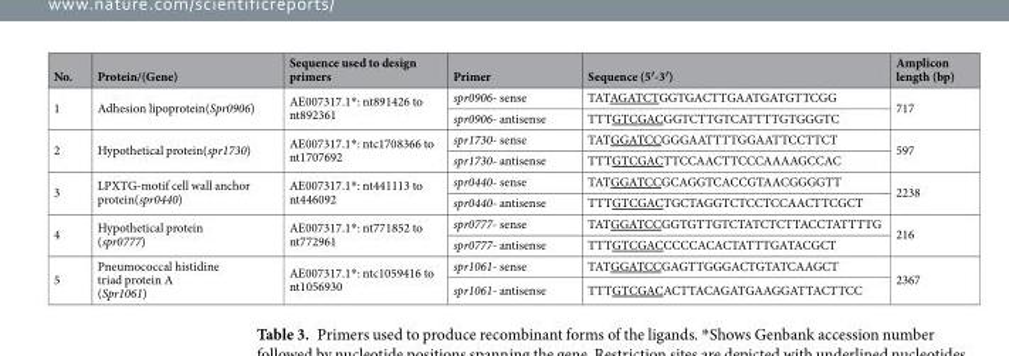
<table><thead><tr><td>No.</td><td>Protein/(Gene)</td><td>Sequence used to design primers</td><td>Primer</td><td>Sequence (5′-3′)</td><td>Amplicon length (bp)</td></tr></thead><tbody><tr><td rowspan="2">1</td><td rowspan="2">Adhesion lipoprotein(Spr0906)</td><td rowspan="2">AE007317.1*: nt891426 to nt892361</td><td>spr0906- sense</td><td>TATAGATCTGGTGACTTGAATGATGTTCGG</td><td rowspan="2">717</td></tr><tr><td>spr0906- antisense</td><td>TTTGTCGACGGTCTTGTCATTTTGTGGGTC</td></tr><tr><td rowspan="2">2</td><td rowspan="2">Hypothetical protein(spr1730)</td><td rowspan="2">AE007317.1*: ntc1708366 to nt1707692</td><td>spr1730- sense</td><td>TATGGATCCGGGAATTTTGGAATTCCTTCT</td><td rowspan="2">597</td></tr><tr><td>spr1730- antisense</td><td>TTTGTCGACTTCCAACTTCCCAAAAGCCAC</td></tr><tr><td rowspan="2">3</td><td rowspan="2">LPXTG-motif cell wall anchor protein(spr0440)</td><td rowspan="2">AE007317.1*: nt441113 to nt446092</td><td>spr0440- sense</td><td>TATGGATCCGCAGGTCACCGTAACGGGGTT</td><td rowspan="2">2238</td></tr><tr><td>spr0440- antisense</td><td>TTTGTCGACTGCTAGGTCTCCTCCAACTTCGCT</td></tr><tr><td rowspan="2">4</td><td rowspan="2">Hypothetical protein (spr0777)</td><td rowspan="2">AE007317.1*: nt771852 to nt772961</td><td>spr0777- sense</td><td>TATGGATCCGGTGTTGTCTATCTCTTACCTATTTTG</td><td rowspan="2">216</td></tr><tr><td>spr0777- antisense</td><td>TTTGTCGACCCCCACACTATTTGATACGCT</td></tr><tr><td rowspan="2">5</td><td rowspan="2">Pneumococcal histidine triad protein A (Spr1061)</td><td rowspan="2">AE007317.1*: ntc1059416 to nt1056930</td><td>spr1061- sense</td><td>TATGGATCCGAGTTGGGACTGTATCAAGCT</td><td rowspan="2">2367</td></tr><tr><td>spr1061- antisense</td><td>TTTGTCGACACTTACAGATGAAGGATTACTTCC</td></tr></tbody></table>